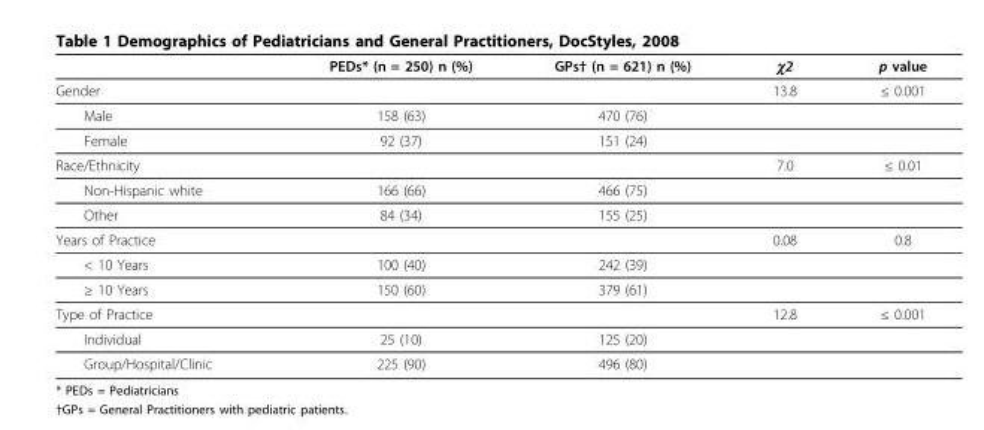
<table><thead><tr><td></td><td>PEDs* (n = 250) n (%)</td><td>GPs† (n = 621) n (%)</td><td>χ2</td><td>p value</td></tr></thead><tbody><tr><td>Gender</td><td></td><td></td><td>13.8</td><td>≤ 0.001</td></tr><tr><td>Male</td><td>158 (63)</td><td>470 (76)</td><td></td><td></td></tr><tr><td>Female</td><td>92 (37)</td><td>151 (24)</td><td></td><td></td></tr><tr><td>Race/Ethnicity</td><td></td><td></td><td>7.0</td><td>≤ 0.01</td></tr><tr><td>Non-Hispanic white</td><td>166 (66)</td><td>466 (75)</td><td></td><td></td></tr><tr><td>Other</td><td>84 (34)</td><td>155 (25)</td><td></td><td></td></tr><tr><td>Years of Practice</td><td></td><td></td><td>0.08</td><td>0.8</td></tr><tr><td>&lt; 10 Years</td><td>100 (40)</td><td>242 (39)</td><td></td><td></td></tr><tr><td>≥ 10 Years</td><td>150 (60)</td><td>379 (61)</td><td></td><td></td></tr><tr><td>Type of Practice</td><td></td><td></td><td>12.8</td><td>≤ 0.001</td></tr><tr><td>Individual</td><td>25 (10)</td><td>125 (20)</td><td></td><td></td></tr><tr><td>Group/Hospital/Clinic</td><td>225 (90)</td><td>496 (80)</td><td></td><td></td></tr></tbody></table>